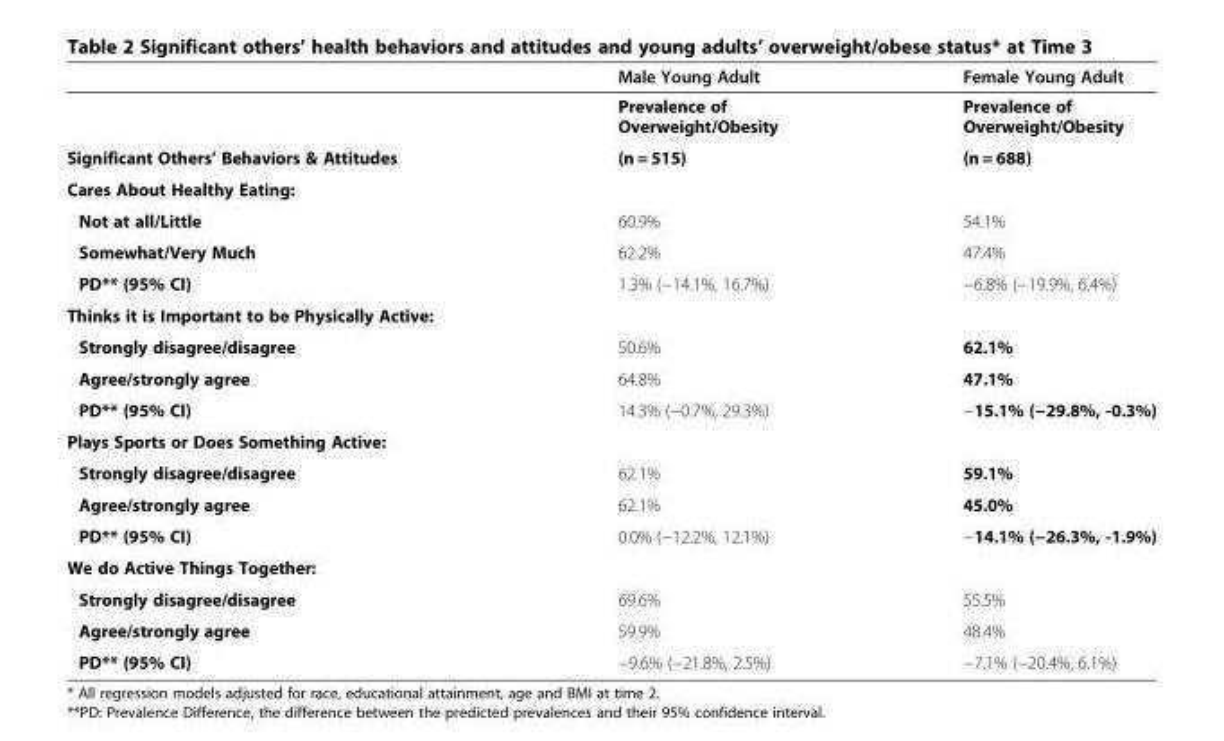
<table><thead><tr><td></td><td>Male Young Adult</td><td>Female Young Adult</td></tr></thead><tbody><tr><td></td><td>Prevalence of Overweight/Obesity</td><td>Prevalence of Overweight/Obesity</td></tr><tr><td>Significant Others’ Behaviors &amp; Attitudes</td><td>(n = 515)</td><td>(n = 688)</td></tr><tr><td colspan="3">Cares About Healthy Eating:</td></tr><tr><td>Not at all/Little</td><td>60.9%</td><td>54.1%</td></tr><tr><td>Somewhat/Very Much</td><td>62.2%</td><td>47.4%</td></tr><tr><td>PD** (95% CI)</td><td>1.3% (−14.1%, 16.7%)</td><td>−6.8% (−19.9%, 6.4%)</td></tr><tr><td colspan="3">Thinks it is Important to be Physically Active:</td></tr><tr><td>Strongly disagree/disagree</td><td>50.6%</td><td>62.1%</td></tr><tr><td>Agree/strongly agree</td><td>64.8%</td><td>47.1%</td></tr><tr><td>PD** (95% CI)</td><td>14.3% (−0.7%, 29.3%)</td><td>−15.1% (−29.8%, -0.3%)</td></tr><tr><td colspan="3">Plays Sports or Does Something Active:</td></tr><tr><td>Strongly disagree/disagree</td><td>62.1%</td><td>59.1%</td></tr><tr><td>Agree/strongly agree</td><td>62.1%</td><td>45.0%</td></tr><tr><td>PD** (95% CI)</td><td>0.0% (−12.2%, 12.1%)</td><td>−14.1% (−26.3%, -1.9%)</td></tr><tr><td colspan="3">We do Active Things Together:</td></tr><tr><td>Strongly disagree/disagree</td><td>69.6%</td><td>55.5%</td></tr><tr><td>Agree/strongly agree</td><td>59.9%</td><td>48.4%</td></tr><tr><td>PD** (95% CI)</td><td>−9.6% (−21.8%, 2.5%)</td><td>−7.1% (−20.4%, 6.1%)</td></tr></tbody></table>